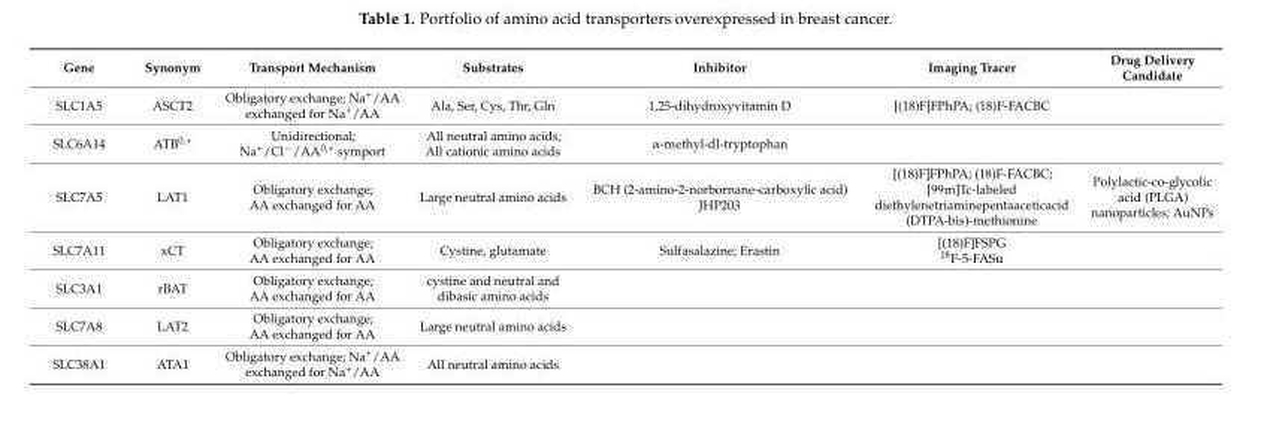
<table><thead><tr><td>Gene</td><td>Synonym</td><td>Transport Mechanism</td><td>Substrates</td><td>Inhibitor</td><td>Imaging Tracer</td><td>Drug Delivery Candidate</td></tr></thead><tbody><tr><td>SLC1A5</td><td>ASCT2</td><td>Obligatory exchange; Na<sup>+</sup>/AA exchanged for Na<sup>+</sup>/AA</td><td>Ala, Ser, Cys, Thr, Gln</td><td>1,25-dihydroxyvitamin D</td><td>[(18)F]FPhPA; (18)F-FACBC</td><td></td></tr><tr><td>SLC6A14</td><td>ATB<sup>0,+</sup></td><td>Unidirectional; Na<sup>+</sup>/Cl<sup>−</sup>/AA<sup>0,+</sup> symport</td><td>All neutral amino acids; All cationic amino acids</td><td>α-methyl-dl-tryptophan</td><td></td><td></td></tr><tr><td>SLC7A5</td><td>LAT1</td><td>Obligatory exchange; AA exchanged for AA</td><td>Large neutral amino acids</td><td>BCH (2-amino-2-norbornane-carboxylic acid) JHP203</td><td>[(18)F]FPhPA; (18)F-FACBC; [99m]Tc-labeled diethylenetriaminepentaaceticacid (DTPA-bis)-methionine</td><td>Polylactic-co-glycolic acid (PLGA) nanoparticles; AuNPs</td></tr><tr><td>SLC7A11</td><td>xCT</td><td>Obligatory exchange; AA exchanged for AA</td><td>Cystine, glutamate</td><td>Sulfasalazine; Erastin</td><td>[(18)F]FSPG <sup>18</sup>F-5-FASu</td><td></td></tr><tr><td>SLC3A1</td><td>rBAT</td><td>Obligatory exchange; AA exchanged for AA</td><td>cystine and neutral and dibasic amino acids</td><td></td><td></td><td></td></tr><tr><td>SLC7A8</td><td>LAT2</td><td>Obligatory exchange; AA exchanged for AA</td><td>Large neutral amino acids</td><td></td><td></td><td></td></tr><tr><td>SLC38A1</td><td>ATA1</td><td>Obligatory exchange; Na<sup>+</sup>/AA exchanged for Na<sup>+</sup>/AA</td><td>All neutral amino acids</td><td></td><td></td><td></td></tr></tbody></table>